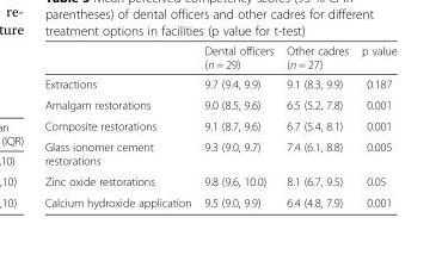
<table><thead><tr><td></td><td>Dental officers (n = 29)</td><td>Other cadres (n = 27)</td><td>p value</td></tr></thead><tbody><tr><td>Extractions</td><td>9.7 (9.4, 9.9)</td><td>9.1 (8.3, 9.9)</td><td>0.187</td></tr><tr><td>Amalgam restorations</td><td>9.0 (8.5, 9.6)</td><td>6.5 (5.2, 7.8)</td><td>0.001</td></tr><tr><td>Composite restorations</td><td>9.1 (8.7, 9.6)</td><td>6.7 (5.4, 8.1)</td><td>0.001</td></tr><tr><td>Glass ionomer cement restorations</td><td>9.3 (9.0, 9.7)</td><td>7.4 (6.1, 8.8)</td><td>0.005</td></tr><tr><td>Zinc oxide restorations</td><td>9.8 (9.6, 10.0)</td><td>8.1 (6.7, 9.5)</td><td>0.05</td></tr><tr><td>Calcium hydroxide application</td><td>9.5 (9.0, 9.9)</td><td>6.4 (4.8, 7.9)</td><td>0.001</td></tr></tbody></table>